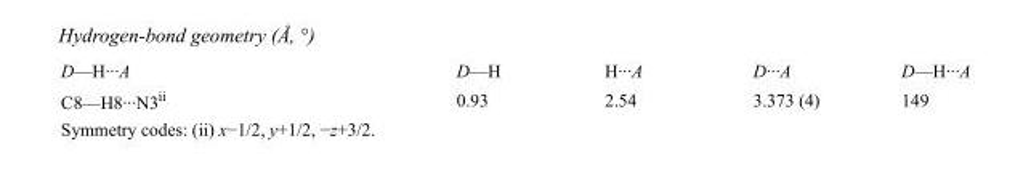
<table><tbody><tr><td>D—H···A</td><td>D—H</td><td>H···A</td><td>D···A</td><td>D—H···A</td></tr><tr><td>C8—H8···N3<sup>ii</sup></td><td>0.93</td><td>2.54</td><td>3.373 (4)</td><td>149</td></tr></tbody></table>